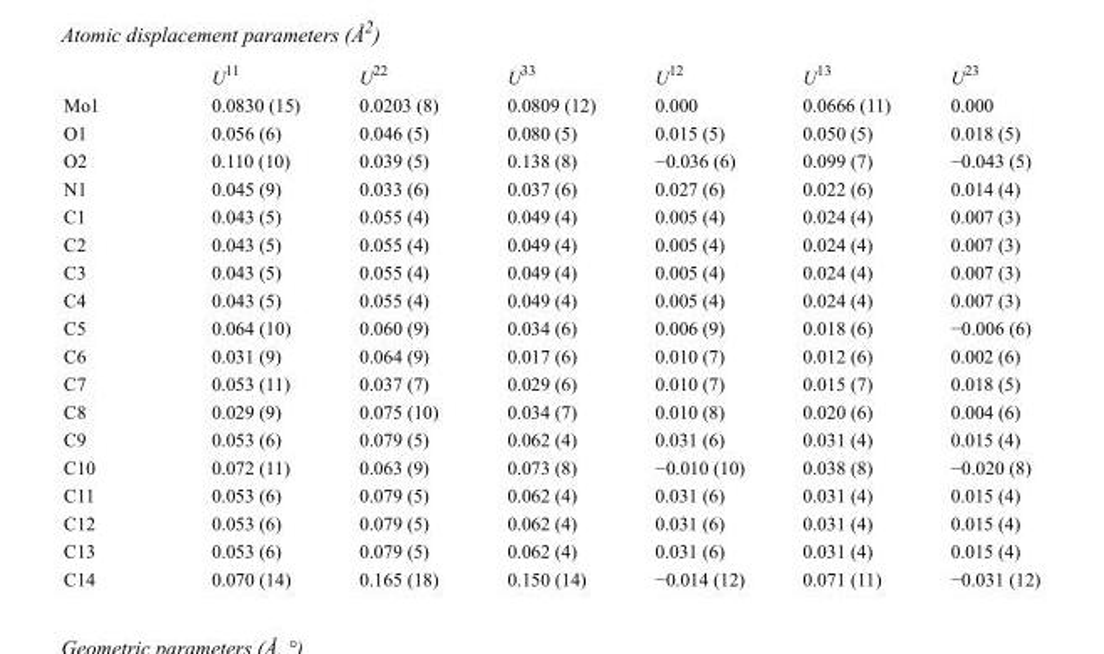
<table><thead><tr><td></td><td>U<sup>11</sup></td><td>U<sup>22</sup></td><td>U<sup>33</sup></td><td>U<sup>12</sup></td><td>U<sup>13</sup></td><td>U<sup>23</sup></td></tr></thead><tbody><tr><td>Mo1</td><td>0.0830 (15)</td><td>0.0203 (8)</td><td>0.0809 (12)</td><td>0.000</td><td>0.0666 (11)</td><td>0.000</td></tr><tr><td>O1</td><td>0.056 (6)</td><td>0.046 (5)</td><td>0.080 (5)</td><td>0.015 (5)</td><td>0.050 (5)</td><td>0.018 (5)</td></tr><tr><td>O2</td><td>0.110 (10)</td><td>0.039 (5)</td><td>0.138 (8)</td><td>−0.036 (6)</td><td>0.099 (7)</td><td>−0.043 (5)</td></tr><tr><td>N1</td><td>0.045 (9)</td><td>0.033 (6)</td><td>0.037 (6)</td><td>0.027 (6)</td><td>0.022 (6)</td><td>0.014 (4)</td></tr><tr><td>C1</td><td>0.043 (5)</td><td>0.055 (4)</td><td>0.049 (4)</td><td>0.005 (4)</td><td>0.024 (4)</td><td>0.007 (3)</td></tr><tr><td>C2</td><td>0.043 (5)</td><td>0.055 (4)</td><td>0.049 (4)</td><td>0.005 (4)</td><td>0.024 (4)</td><td>0.007 (3)</td></tr><tr><td>C3</td><td>0.043 (5)</td><td>0.055 (4)</td><td>0.049 (4)</td><td>0.005 (4)</td><td>0.024 (4)</td><td>0.007 (3)</td></tr><tr><td>C4</td><td>0.043 (5)</td><td>0.055 (4)</td><td>0.049 (4)</td><td>0.005 (4)</td><td>0.024 (4)</td><td>0.007 (3)</td></tr><tr><td>C5</td><td>0.064 (10)</td><td>0.060 (9)</td><td>0.034 (6)</td><td>0.006 (9)</td><td>0.018 (6)</td><td>−0.006 (6)</td></tr><tr><td>C6</td><td>0.031 (9)</td><td>0.064 (9)</td><td>0.017 (6)</td><td>0.010 (7)</td><td>0.012 (6)</td><td>0.002 (6)</td></tr><tr><td>C7</td><td>0.053 (11)</td><td>0.037 (7)</td><td>0.029 (6)</td><td>0.010 (7)</td><td>0.015 (7)</td><td>0.018 (5)</td></tr><tr><td>C8</td><td>0.029 (9)</td><td>0.075 (10)</td><td>0.034 (7)</td><td>0.010 (8)</td><td>0.020 (6)</td><td>0.004 (6)</td></tr><tr><td>C9</td><td>0.053 (6)</td><td>0.079 (5)</td><td>0.062 (4)</td><td>0.031 (6)</td><td>0.031 (4)</td><td>0.015 (4)</td></tr><tr><td>C10</td><td>0.072 (11)</td><td>0.063 (9)</td><td>0.073 (8)</td><td>−0.010 (10)</td><td>0.038 (8)</td><td>−0.020 (8)</td></tr><tr><td>C11</td><td>0.053 (6)</td><td>0.079 (5)</td><td>0.062 (4)</td><td>0.031 (6)</td><td>0.031 (4)</td><td>0.015 (4)</td></tr><tr><td>C12</td><td>0.053 (6)</td><td>0.079 (5)</td><td>0.062 (4)</td><td>0.031 (6)</td><td>0.031 (4)</td><td>0.015 (4)</td></tr><tr><td>C13</td><td>0.053 (6)</td><td>0.079 (5)</td><td>0.062 (4)</td><td>0.031 (6)</td><td>0.031 (4)</td><td>0.015 (4)</td></tr><tr><td>C14</td><td>0.070 (14)</td><td>0.165 (18)</td><td>0.150 (14)</td><td>−0.014 (12)</td><td>0.071 (11)</td><td>−0.031 (12)</td></tr></tbody></table>